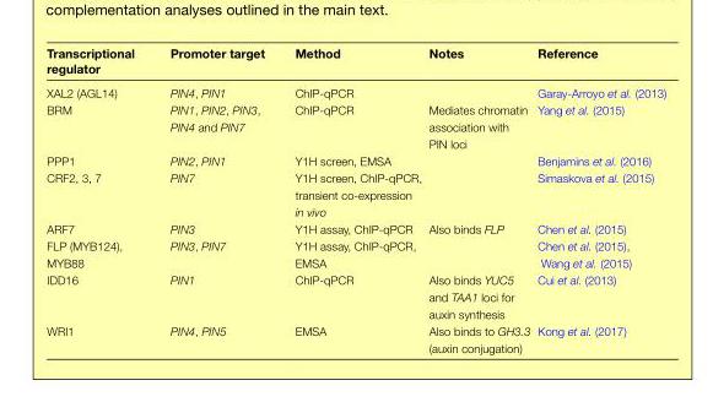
<table><thead><tr><td>Transcriptional regulator</td><td>Promoter target</td><td>Method</td><td>Notes</td><td>Reference</td></tr></thead><tbody><tr><td>XAL2 (AGL14)</td><td>PIN4, PIN1</td><td>ChIP-qPCR</td><td></td><td>Garay-Arroyo et al. (2013)</td></tr><tr><td>BRM</td><td>PIN1, PIN2, PIN3, PIN4 and PIN7</td><td>ChIP-qPCR</td><td>Mediates chromatin association with PIN loci</td><td>Yang et al. (2015)</td></tr><tr><td>PPP1</td><td>PIN2, PIN1</td><td>Y1H screen, EMSA</td><td></td><td>Benjamins et al. (2016)</td></tr><tr><td>CRF2, 3, 7</td><td>PIN7</td><td>Y1H screen, ChIP-qPCR, transient co-expression in vivo</td><td></td><td>Simaskova et al. (2015)</td></tr><tr><td>ARF7</td><td>PIN3</td><td>Y1H assay, ChIP-qPCR</td><td>Also binds FLP</td><td>Chen et al. (2015)</td></tr><tr><td>FLP (MYB124), MYB88</td><td>PIN3, PIN7</td><td>Y1H assay, ChIP-qPCR, EMSA</td><td></td><td>Chen et al. (2015), Wang et al. (2015)</td></tr><tr><td>IDD16</td><td>PIN1</td><td>ChIP-qPCR</td><td>Also binds YUC5 and TAA1 loci for auxin synthesis</td><td>Cui et al. (2013)</td></tr><tr><td>WRI1</td><td>PIN4, PIN5</td><td>EMSA</td><td>Also binds to GH3.3 (auxin conjugation)</td><td>Kong et al. (2017)</td></tr></tbody></table>